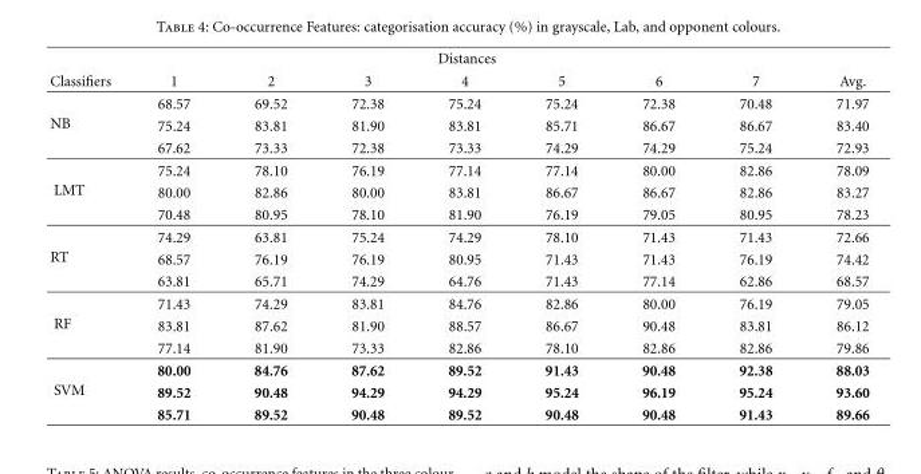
<table><thead><tr><td rowspan="2">Classifiers</td><td colspan="7">Distances</td><td rowspan="2">Avg.</td></tr><tr><td>1</td><td>2</td><td>3</td><td>4</td><td>5</td><td>6</td><td>7</td></tr></thead><tbody><tr><td rowspan="3">NB</td><td>68.57</td><td>69.52</td><td>72.38</td><td>75.24</td><td>75.24</td><td>72.38</td><td>70.48</td><td>71.97</td></tr><tr><td>75.24</td><td>83.81</td><td>81.90</td><td>83.81</td><td>85.71</td><td>86.67</td><td>86.67</td><td>83.40</td></tr><tr><td>67.62</td><td>73.33</td><td>72.38</td><td>73.33</td><td>74.29</td><td>74.29</td><td>75.24</td><td>72.93</td></tr><tr><td rowspan="3">LMT</td><td>75.24</td><td>78.10</td><td>76.19</td><td>77.14</td><td>77.14</td><td>80.00</td><td>82.86</td><td>78.09</td></tr><tr><td>80.00</td><td>82.86</td><td>80.00</td><td>83.81</td><td>86.67</td><td>86.67</td><td>82.86</td><td>83.27</td></tr><tr><td>70.48</td><td>80.95</td><td>78.10</td><td>81.90</td><td>76.19</td><td>79.05</td><td>80.95</td><td>78.23</td></tr><tr><td rowspan="3">RT</td><td>74.29</td><td>63.81</td><td>75.24</td><td>74.29</td><td>78.10</td><td>71.43</td><td>71.43</td><td>72.66</td></tr><tr><td>68.57</td><td>76.19</td><td>76.19</td><td>80.95</td><td>71.43</td><td>71.43</td><td>76.19</td><td>74.42</td></tr><tr><td>63.81</td><td>65.71</td><td>74.29</td><td>64.76</td><td>71.43</td><td>77.14</td><td>62.86</td><td>68.57</td></tr><tr><td rowspan="3">RF</td><td>71.43</td><td>74.29</td><td>83.81</td><td>84.76</td><td>82.86</td><td>80.00</td><td>76.19</td><td>79.05</td></tr><tr><td>83.81</td><td>87.62</td><td>81.90</td><td>88.57</td><td>86.67</td><td>90.48</td><td>83.81</td><td>86.12</td></tr><tr><td>77.14</td><td>81.90</td><td>73.33</td><td>82.86</td><td>78.10</td><td>82.86</td><td>82.86</td><td>79.86</td></tr><tr><td rowspan="3">SVM</td><td>80.00</td><td>84.76</td><td>87.62</td><td>89.52</td><td>91.43</td><td>90.48</td><td>92.38</td><td>88.03</td></tr><tr><td>89.52</td><td>90.48</td><td>94.29</td><td>94.29</td><td>95.24</td><td>96.19</td><td>95.24</td><td>93.60</td></tr><tr><td>85.71</td><td>89.52</td><td>90.48</td><td>89.52</td><td>90.48</td><td>90.48</td><td>91.43</td><td>89.66</td></tr></tbody></table>